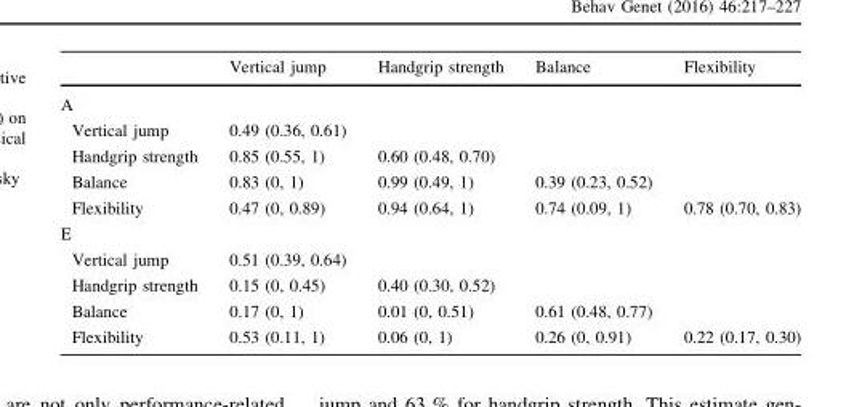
<table><thead><tr><td></td><td>Vertical jump</td><td>Handgrip strength</td><td>Balance</td><td>Flexibility</td></tr></thead><tbody><tr><td colspan="5">A</td></tr><tr><td>Vertical jump</td><td>0.49 (0.36, 0.61)</td><td></td><td></td><td></td></tr><tr><td>Handgrip strength</td><td>0.85 (0.55, 1)</td><td>0.60 (0.48, 0.70)</td><td></td><td></td></tr><tr><td>Balance</td><td>0.83 (0, 1)</td><td>0.99 (0.49, 1)</td><td>0.39 (0.23, 0.52)</td><td></td></tr><tr><td>Flexibility</td><td>0.47 (0, 0.89)</td><td>0.94 (0.64, 1)</td><td>0.74 (0.09, 1)</td><td>0.78 (0.70, 0.83)</td></tr><tr><td colspan="5">E</td></tr><tr><td>Vertical jump</td><td>0.51 (0.39, 0.64)</td><td></td><td></td><td></td></tr><tr><td>Handgrip strength</td><td>0.15 (0, 0.45)</td><td>0.40 (0.30, 0.52)</td><td></td><td></td></tr><tr><td>Balance</td><td>0.17 (0, 1)</td><td>0.01 (0, 0.51)</td><td>0.61 (0.48, 0.77)</td><td></td></tr><tr><td>Flexibility</td><td>0.53 (0.11, 1)</td><td>0.06 (0, 1)</td><td>0.26 (0, 0.91)</td><td>0.22 (0.17, 0.30)</td></tr></tbody></table>